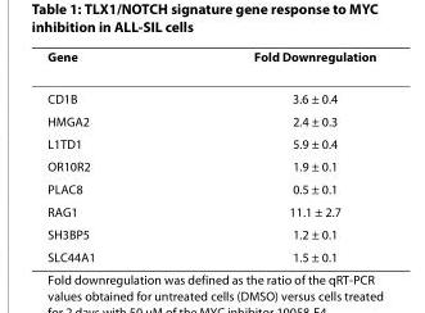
<table><thead><tr><td>Gene</td><td>Fold Downregulation</td></tr></thead><tbody><tr><td>CD1B</td><td>3.6 ± 0.4</td></tr><tr><td>HMGA2</td><td>2.4 ± 0.3</td></tr><tr><td>L1TD1</td><td>5.9 ± 0.4</td></tr><tr><td>OR10R2</td><td>1.9 ± 0.1</td></tr><tr><td>PLAC8</td><td>0.5 ± 0.1</td></tr><tr><td>RAG1</td><td>11.1 ± 2.7</td></tr><tr><td>SH3BP5</td><td>1.2 ± 0.1</td></tr><tr><td>SLC44A1</td><td>1.5 ± 0.1</td></tr></tbody></table>